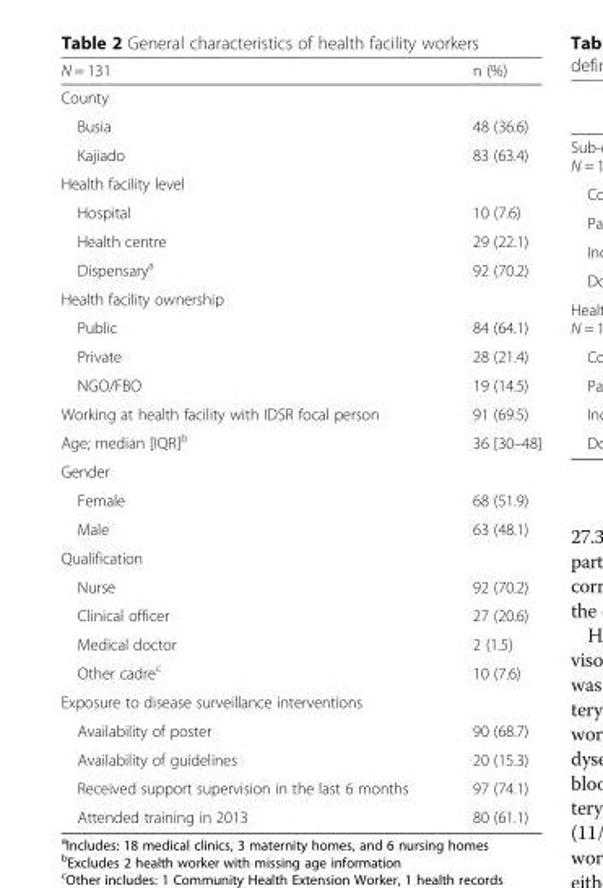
<table><thead><tr><td>N = 131</td><td>n (%)</td></tr></thead><tbody><tr><td colspan="2">County</td></tr><tr><td>Busia</td><td>48 (36.6)</td></tr><tr><td>Kajiado</td><td>83 (63.4)</td></tr><tr><td colspan="2">Health facility level</td></tr><tr><td>Hospital</td><td>10 (7.6)</td></tr><tr><td>Health centre</td><td>29 (22.1)</td></tr><tr><td>Dispensary<sup>a</sup></td><td>92 (70.2)</td></tr><tr><td colspan="2">Health facility ownership</td></tr><tr><td>Public</td><td>84 (64.1)</td></tr><tr><td>Private</td><td>28 (21.4)</td></tr><tr><td>NGO/FBO</td><td>19 (14.5)</td></tr><tr><td>Working at health facility with IDSR focal person</td><td>91 (69.5)</td></tr><tr><td>Age; median [IQR]<sup>b</sup></td><td>36 [30–48]</td></tr><tr><td colspan="2">Gender</td></tr><tr><td>Female</td><td>68 (51.9)</td></tr><tr><td>Male</td><td>63 (48.1)</td></tr><tr><td colspan="2">Qualification</td></tr><tr><td>Nurse</td><td>92 (70.2)</td></tr><tr><td>Clinical officer</td><td>27 (20.6)</td></tr><tr><td>Medical doctor</td><td>2 (1.5)</td></tr><tr><td>Other cadre<sup>c</sup></td><td>10 (7.6)</td></tr><tr><td colspan="2">Exposure to disease surveillance interventions</td></tr><tr><td>Availability of poster</td><td>90 (68.7)</td></tr><tr><td>Availability of guidelines</td><td>20 (15.3)</td></tr><tr><td>Received support supervision in the last 6 months</td><td>97 (74.1)</td></tr><tr><td>Attended training in 2013</td><td>80 (61.1)</td></tr></tbody></table>